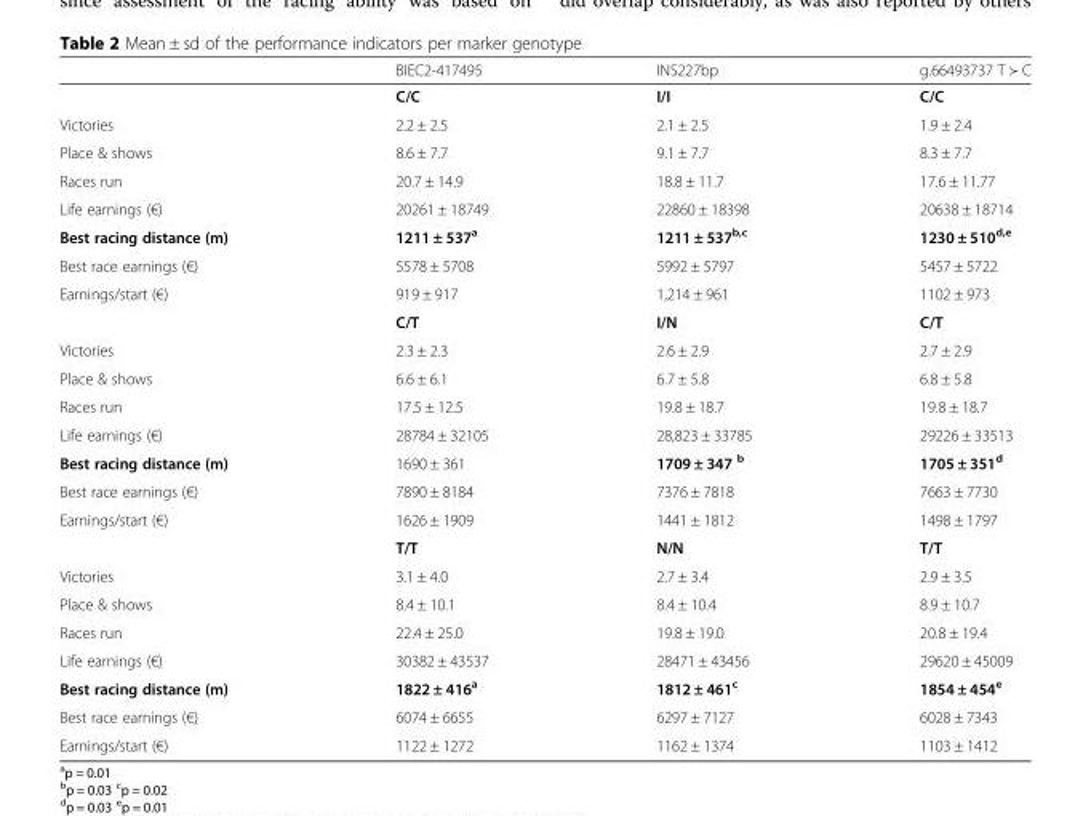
<table><thead><tr><td></td><td>BIEC2-417495</td><td>INS227bp</td><td>g.66493737 T ≻ C</td></tr></thead><tbody><tr><td></td><td>C/C</td><td>I/I</td><td>C/C</td></tr><tr><td>Victories</td><td>2.2 ± 2.5</td><td>2.1 ± 2.5</td><td>1.9 ± 2.4</td></tr><tr><td>Place &amp; shows</td><td>8.6 ± 7.7</td><td>9.1 ± 7.7</td><td>8.3 ± 7.7</td></tr><tr><td>Races run</td><td>20.7 ± 14.9</td><td>18.8 ± 11.7</td><td>17.6 ± 11.77</td></tr><tr><td>Life earnings (€)</td><td>20261 ± 18749</td><td>22860 ± 18398</td><td>20638 ± 18714</td></tr><tr><td>Best racing distance (m)</td><td>1211 ± 537<sup>a</sup></td><td>1211 ± 537<sup>b,c</sup></td><td>1230 ± 510<sup>d,e</sup></td></tr><tr><td>Best race earnings (€)</td><td>5578 ± 5708</td><td>5992 ± 5797</td><td>5457 ± 5722</td></tr><tr><td rowspan="2">Earnings/start (€)</td><td>919 ± 917</td><td>1,214 ± 961</td><td>1102 ± 973</td></tr><tr><td>C/T</td><td>I/N</td><td>C/T</td></tr><tr><td>Victories</td><td>2.3 ± 2.3</td><td>2.6 ± 2.9</td><td>2.7 ± 2.9</td></tr><tr><td>Place &amp; shows</td><td>6.6 ± 6.1</td><td>6.7 ± 5.8</td><td>6.8 ± 5.8</td></tr><tr><td>Races run</td><td>17.5 ± 12.5</td><td>19.8 ± 18.7</td><td>19.8 ± 18.7</td></tr><tr><td>Life earnings (€)</td><td>28784 ± 32105</td><td>28,823 ± 33785</td><td>29226 ± 33513</td></tr><tr><td>Best racing distance (m)</td><td>1690 ± 361</td><td>1709 ± 347 <sup>b</sup></td><td>1705 ± 351<sup>d</sup></td></tr><tr><td>Best race earnings (€)</td><td>7890 ± 8184</td><td>7376 ± 7818</td><td>7663 ± 7730</td></tr><tr><td rowspan="2">Earnings/start (€)</td><td>1626 ± 1909</td><td>1441 ± 1812</td><td>1498 ± 1797</td></tr><tr><td>T/T</td><td>N/N</td><td>T/T</td></tr><tr><td>Victories</td><td>3.1 ± 4.0</td><td>2.7 ± 3.4</td><td>2.9 ± 3.5</td></tr><tr><td>Place &amp; shows</td><td>8.4 ± 10.1</td><td>8.4 ± 10.4</td><td>8.9 ± 10.7</td></tr><tr><td>Races run</td><td>22.4 ± 25.0</td><td>19.8 ± 19.0</td><td>20.8 ± 19.4</td></tr><tr><td>Life earnings (€)</td><td>30382 ± 43537</td><td>28471 ± 43456</td><td>29620 ± 45009</td></tr><tr><td>Best racing distance (m)</td><td>1822 ± 416<sup>a</sup></td><td>1812 ± 461<sup>c</sup></td><td>1854 ± 454<sup>e</sup></td></tr><tr><td>Best race earnings (€)</td><td>6074 ± 6655</td><td>6297 ± 7127</td><td>6028 ± 7343</td></tr><tr><td>Earnings/start (€)</td><td>1122 ± 1272</td><td>1162 ± 1374</td><td>1103 ± 1412</td></tr></tbody></table>